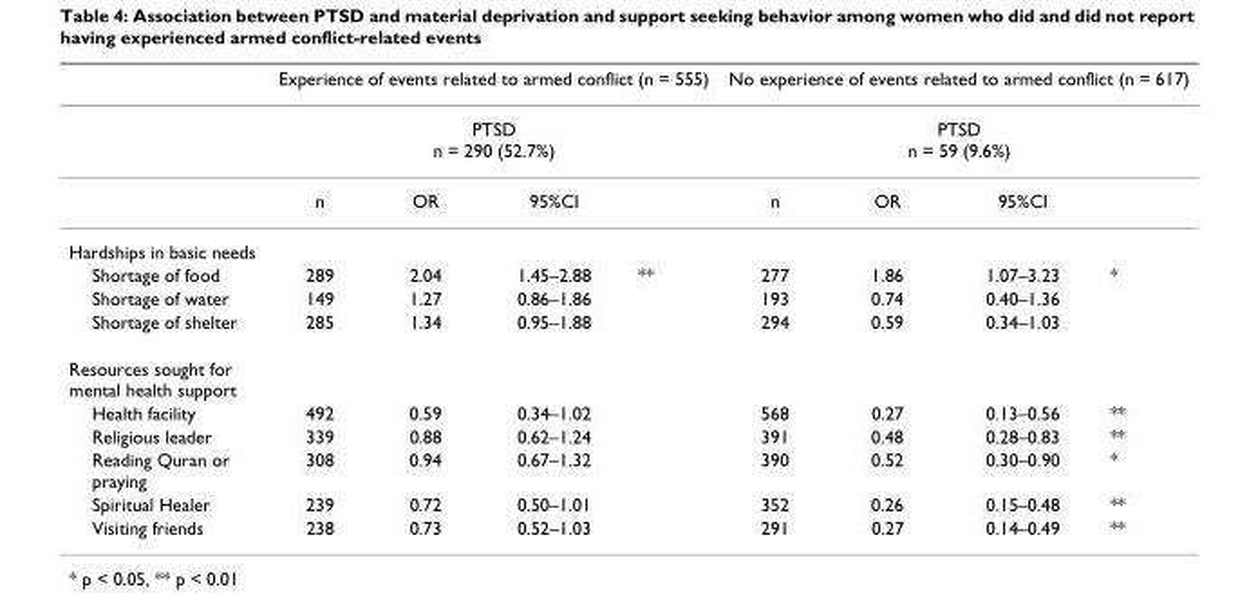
<table><thead><tr><td rowspan="3"></td><td rowspan="2" colspan="4">Experience of events related to armed conflict (n = 555) PTSD n = 290 (52.7%)</td><td rowspan="2" colspan="4">No experience of events related to armed conflict (n = 617) PTSD n = 59 (9.6%)</td></tr><tr></tr><tr><td>n</td><td>OR</td><td>95%CI</td><td></td><td>n</td><td>OR</td><td>95%CI</td><td></td></tr></thead><tbody><tr><td colspan="9">Hardships in basic needs</td></tr><tr><td>Shortage of food</td><td>289</td><td>2.04</td><td>1.45–2.88</td><td>**</td><td>277</td><td>1.86</td><td>1.07–3.23</td><td>*</td></tr><tr><td>Shortage of water</td><td>149</td><td>1.27</td><td>0.86–1.86</td><td></td><td>193</td><td>0.74</td><td>0.40–1.36</td><td></td></tr><tr><td>Shortage of shelter</td><td>285</td><td>1.34</td><td>0.95–1.88</td><td></td><td>294</td><td>0.59</td><td>0.34–1.03</td><td></td></tr><tr><td colspan="9">Resources sought for mental health support</td></tr><tr><td>Health facility</td><td>492</td><td>0.59</td><td>0.34–1.02</td><td></td><td>568</td><td>0.27</td><td>0.13–0.56</td><td>**</td></tr><tr><td>Religious leader</td><td>339</td><td>0.88</td><td>0.62–1.24</td><td></td><td>391</td><td>0.48</td><td>0.28–0.83</td><td>**</td></tr><tr><td>Reading Quran or praying</td><td>308</td><td>0.94</td><td>0.67–1.32</td><td></td><td>390</td><td>0.52</td><td>0.30–0.90</td><td>*</td></tr><tr><td>Spiritual Healer</td><td>239</td><td>0.72</td><td>0.50–1.01</td><td></td><td>352</td><td>0.26</td><td>0.15–0.48</td><td>**</td></tr><tr><td>Visiting friends</td><td>238</td><td>0.73</td><td>0.52–1.03</td><td></td><td>291</td><td>0.27</td><td>0.14–0.49</td><td>**</td></tr></tbody></table>